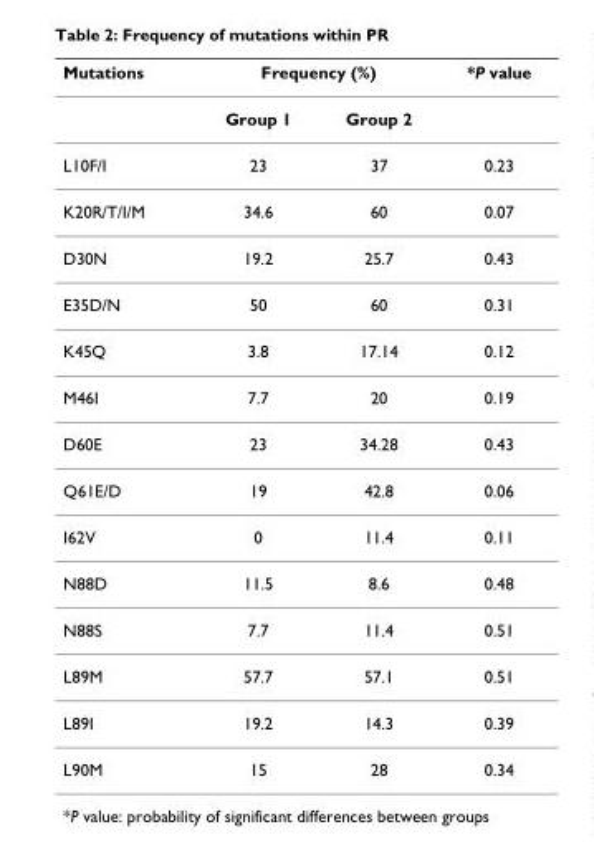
<table><thead><tr><td rowspan="2">Mutations</td><td colspan="2">Frequency (%)</td><td rowspan="2">*P value</td></tr><tr><td>Group 1</td><td>Group 2</td></tr></thead><tbody><tr><td>L10F/I</td><td>23</td><td>37</td><td>0.23</td></tr><tr><td>K20R/T/I/M</td><td>34.6</td><td>60</td><td>0.07</td></tr><tr><td>D30N</td><td>19.2</td><td>25.7</td><td>0.43</td></tr><tr><td>E35D/N</td><td>50</td><td>60</td><td>0.31</td></tr><tr><td>K45Q</td><td>3.8</td><td>17.14</td><td>0.12</td></tr><tr><td>M46I</td><td>7.7</td><td>20</td><td>0.19</td></tr><tr><td>D60E</td><td>23</td><td>34.28</td><td>0.43</td></tr><tr><td>Q61E/D</td><td>19</td><td>42.8</td><td>0.06</td></tr><tr><td>I62V</td><td>0</td><td>11.4</td><td>0.11</td></tr><tr><td>N88D</td><td>11.5</td><td>8.6</td><td>0.48</td></tr><tr><td>N88S</td><td>7.7</td><td>11.4</td><td>0.51</td></tr><tr><td>L89M</td><td>57.7</td><td>57.1</td><td>0.51</td></tr><tr><td>L89I</td><td>19.2</td><td>14.3</td><td>0.39</td></tr><tr><td>L90M</td><td>15</td><td>28</td><td>0.34</td></tr></tbody></table>